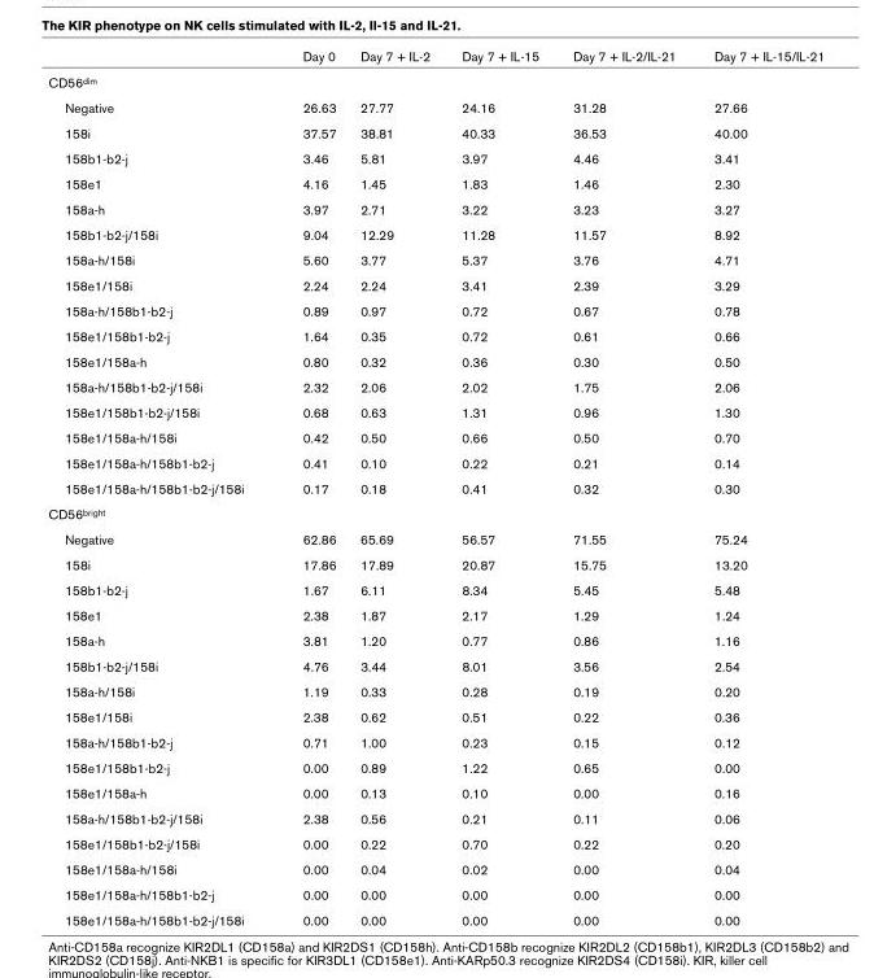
<table><thead><tr><td></td><td>Day 0</td><td>Day 7 + IL-2</td><td>Day 7 + IL-15</td><td>Day 7 + IL-2/IL-21</td><td>Day 7 + IL-15/IL-21</td></tr></thead><tbody><tr><td colspan="6">CD56<sup>dim</sup></td></tr><tr><td>Negative</td><td>26.63</td><td>27.77</td><td>24.16</td><td>31.28</td><td>27.66</td></tr><tr><td>158i</td><td>37.57</td><td>38.81</td><td>40.33</td><td>36.53</td><td>40.00</td></tr><tr><td>158b1-b2-j</td><td>3.46</td><td>5.81</td><td>3.97</td><td>4.46</td><td>3.41</td></tr><tr><td>158e1</td><td>4.16</td><td>1.45</td><td>1.83</td><td>1.46</td><td>2.30</td></tr><tr><td>158a-h</td><td>3.97</td><td>2.71</td><td>3.22</td><td>3.23</td><td>3.27</td></tr><tr><td>158b1-b2-j/158i</td><td>9.04</td><td>12.29</td><td>11.28</td><td>11.57</td><td>8.92</td></tr><tr><td>158a-h/158i</td><td>5.60</td><td>3.77</td><td>5.37</td><td>3.76</td><td>4.71</td></tr><tr><td>158e1/158i</td><td>2.24</td><td>2.24</td><td>3.41</td><td>2.39</td><td>3.29</td></tr><tr><td>158a-h/158b1-b2-j</td><td>0.89</td><td>0.97</td><td>0.72</td><td>0.67</td><td>0.78</td></tr><tr><td>158e1/158b1-b2-j</td><td>1.64</td><td>0.35</td><td>0.72</td><td>0.61</td><td>0.66</td></tr><tr><td>158e1/158a-h</td><td>0.80</td><td>0.32</td><td>0.36</td><td>0.30</td><td>0.50</td></tr><tr><td>158a-h/158b1-b2-j/158i</td><td>2.32</td><td>2.06</td><td>2.02</td><td>1.75</td><td>2.06</td></tr><tr><td>158e1/158b1-b2-j/158i</td><td>0.68</td><td>0.63</td><td>1.31</td><td>0.96</td><td>1.30</td></tr><tr><td>158e1/158a-h/158i</td><td>0.42</td><td>0.50</td><td>0.66</td><td>0.50</td><td>0.70</td></tr><tr><td>158e1/158a-h/158b1-b2-j</td><td>0.41</td><td>0.10</td><td>0.22</td><td>0.21</td><td>0.14</td></tr><tr><td>158e1/158a-h/158b1-b2-j/158i</td><td>0.17</td><td>0.18</td><td>0.41</td><td>0.32</td><td>0.30</td></tr><tr><td colspan="6">CD56<sup>bright</sup></td></tr><tr><td>Negative</td><td>62.86</td><td>65.69</td><td>56.57</td><td>71.55</td><td>75.24</td></tr><tr><td>158i</td><td>17.86</td><td>17.89</td><td>20.87</td><td>15.75</td><td>13.20</td></tr><tr><td>158b1-b2-j</td><td>1.67</td><td>6.11</td><td>8.34</td><td>5.45</td><td>5.48</td></tr><tr><td>158e1</td><td>2.38</td><td>1.87</td><td>2.17</td><td>1.29</td><td>1.24</td></tr><tr><td>158a-h</td><td>3.81</td><td>1.20</td><td>0.77</td><td>0.86</td><td>1.16</td></tr><tr><td>158b1-b2-j/158i</td><td>4.76</td><td>3.44</td><td>8.01</td><td>3.56</td><td>2.54</td></tr><tr><td>158a-h/158i</td><td>1.19</td><td>0.33</td><td>0.28</td><td>0.19</td><td>0.20</td></tr><tr><td>158e1/158i</td><td>2.38</td><td>0.62</td><td>0.51</td><td>0.22</td><td>0.36</td></tr><tr><td>158a-h/158b1-b2-j</td><td>0.71</td><td>1.00</td><td>0.23</td><td>0.15</td><td>0.12</td></tr><tr><td>158e1/158b1-b2-j</td><td>0.00</td><td>0.89</td><td>1.22</td><td>0.65</td><td>0.00</td></tr><tr><td>158e1/158a-h</td><td>0.00</td><td>0.13</td><td>0.10</td><td>0.00</td><td>0.16</td></tr><tr><td>158a-h/158b1-b2-j/158i</td><td>2.38</td><td>0.56</td><td>0.21</td><td>0.11</td><td>0.06</td></tr><tr><td>158e1/158b1-b2-j/158i</td><td>0.00</td><td>0.22</td><td>0.70</td><td>0.22</td><td>0.20</td></tr><tr><td>158e1/158a-h/158i</td><td>0.00</td><td>0.04</td><td>0.02</td><td>0.00</td><td>0.04</td></tr><tr><td>158e1/158a-h/158b1-b2-j</td><td>0.00</td><td>0.00</td><td>0.00</td><td>0.00</td><td>0.00</td></tr><tr><td>158e1/158a-h/158b1-b2-j/158i</td><td>0.00</td><td>0.00</td><td>0.00</td><td>0.00</td><td>0.00</td></tr></tbody></table>